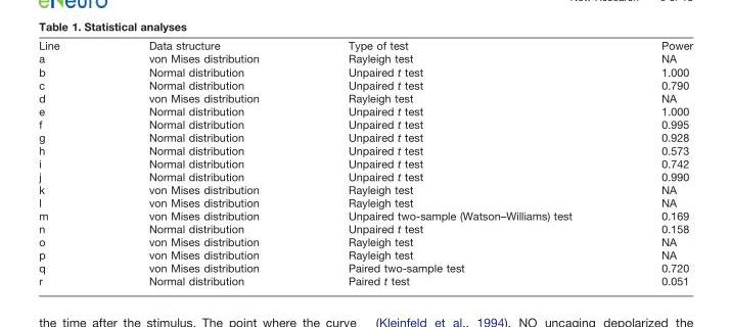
<table><thead><tr><td>Line</td><td>Data structure</td><td>Type of test</td><td>Power</td></tr></thead><tbody><tr><td>a</td><td>von Mises distribution</td><td>Rayleigh test</td><td>NA</td></tr><tr><td>b</td><td>Normal distribution</td><td>Unpaired t test</td><td>1.000</td></tr><tr><td>c</td><td>Normal distribution</td><td>Unpaired t test</td><td>0.790</td></tr><tr><td>d</td><td>von Mises distribution</td><td>Rayleigh test</td><td>NA</td></tr><tr><td>e</td><td>Normal distribution</td><td>Unpaired t test</td><td>1.000</td></tr><tr><td>f</td><td>Normal distribution</td><td>Unpaired t test</td><td>0.995</td></tr><tr><td>g</td><td>Normal distribution</td><td>Unpaired t test</td><td>0.928</td></tr><tr><td>h</td><td>Normal distribution</td><td>Unpaired t test</td><td>0.573</td></tr><tr><td>i</td><td>Normal distribution</td><td>Unpaired t test</td><td>0.742</td></tr><tr><td>j</td><td>Normal distribution</td><td>Unpaired t test</td><td>0.990</td></tr><tr><td>k</td><td>von Mises distribution</td><td>Rayleigh test</td><td>NA</td></tr><tr><td>l</td><td>von Mises distribution</td><td>Rayleigh test</td><td>NA</td></tr><tr><td>m</td><td>von Mises distribution</td><td>Unpaired two-sample (Watson–Williams) test</td><td>0.169</td></tr><tr><td>n</td><td>Normal distribution</td><td>Unpaired t test</td><td>0.158</td></tr><tr><td>o</td><td>von Mises distribution</td><td>Rayleigh test</td><td>NA</td></tr><tr><td>p</td><td>von Mises distribution</td><td>Rayleigh test</td><td>NA</td></tr><tr><td>q</td><td>von Mises distribution</td><td>Paired two-sample test</td><td>0.720</td></tr><tr><td>r</td><td>Normal distribution</td><td>Paired t test</td><td>0.051</td></tr></tbody></table>